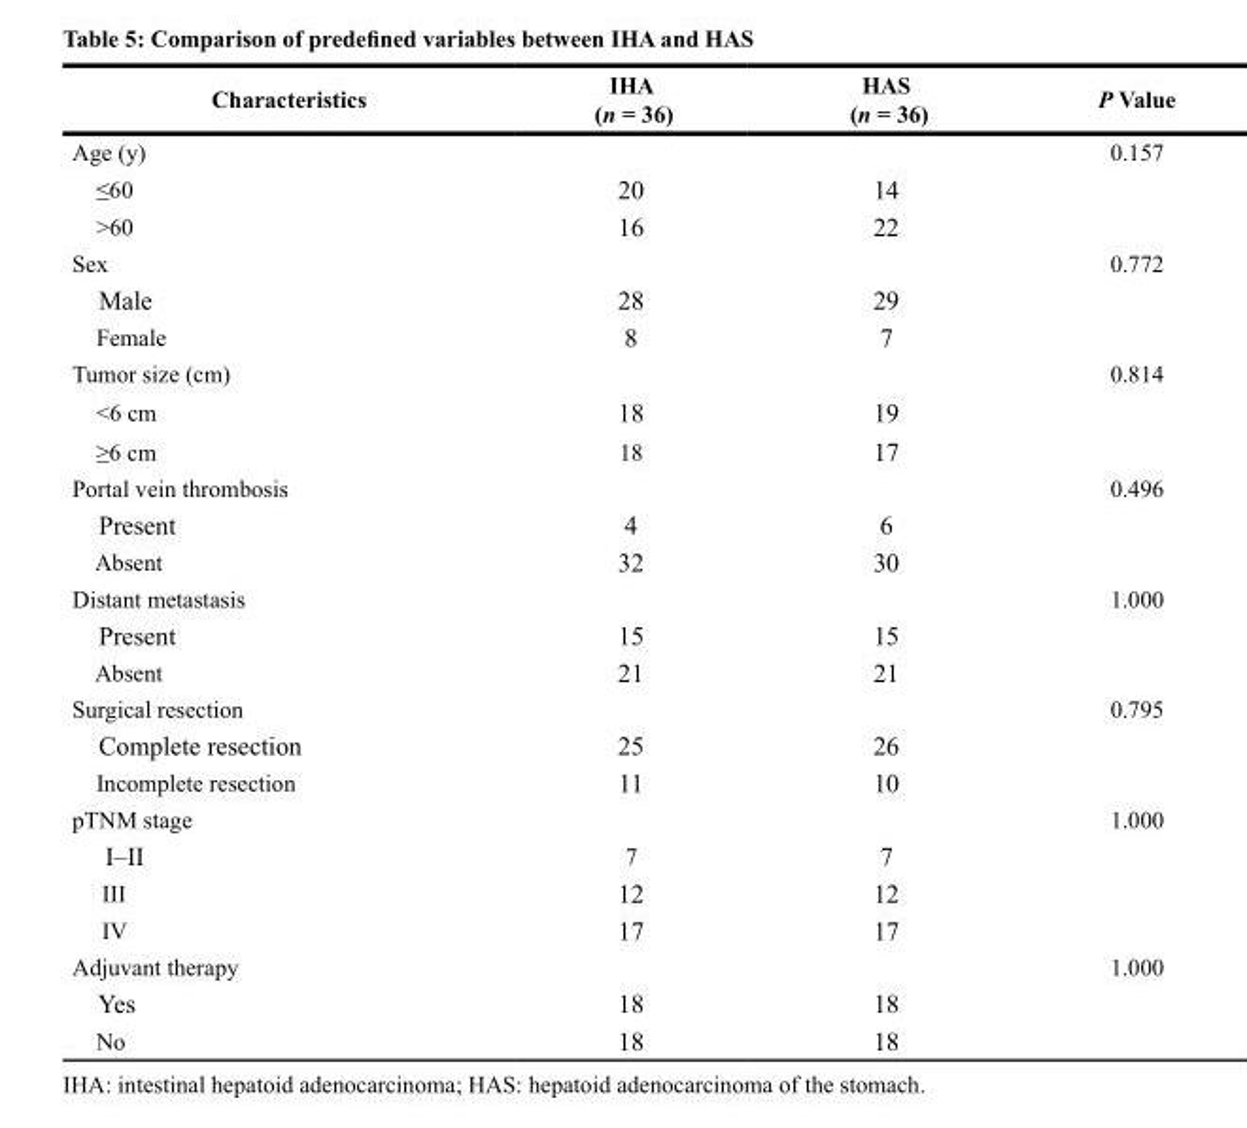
<table><thead><tr><td>Characteristics</td><td>IHA (n = 36)</td><td>HAS (n = 36)</td><td>P Value</td></tr></thead><tbody><tr><td>Age (y)</td><td></td><td></td><td>0.157</td></tr><tr><td>≤60</td><td>20</td><td>14</td><td></td></tr><tr><td>&gt;60</td><td>16</td><td>22</td><td></td></tr><tr><td>Sex</td><td></td><td></td><td>0.772</td></tr><tr><td>Male</td><td>28</td><td>29</td><td></td></tr><tr><td>Female</td><td>8</td><td>7</td><td></td></tr><tr><td>Tumor size (cm)</td><td></td><td></td><td>0.814</td></tr><tr><td>&lt;6 cm</td><td>18</td><td>19</td><td></td></tr><tr><td>≥6 cm</td><td>18</td><td>17</td><td></td></tr><tr><td>Portal vein thrombosis</td><td></td><td></td><td>0.496</td></tr><tr><td>Present</td><td>4</td><td>6</td><td></td></tr><tr><td>Absent</td><td>32</td><td>30</td><td></td></tr><tr><td>Distant metastasis</td><td></td><td></td><td>1.000</td></tr><tr><td>Present</td><td>15</td><td>15</td><td></td></tr><tr><td>Absent</td><td>21</td><td>21</td><td></td></tr><tr><td>Surgical resection</td><td></td><td></td><td>0.795</td></tr><tr><td>Complete resection</td><td>25</td><td>26</td><td></td></tr><tr><td>Incomplete resection</td><td>11</td><td>10</td><td></td></tr><tr><td>pTNM stage</td><td></td><td></td><td>1.000</td></tr><tr><td>I–II</td><td>7</td><td>7</td><td></td></tr><tr><td>III</td><td>12</td><td>12</td><td></td></tr><tr><td>IV</td><td>17</td><td>17</td><td></td></tr><tr><td>Adjuvant therapy</td><td></td><td></td><td>1.000</td></tr><tr><td>Yes</td><td>18</td><td>18</td><td></td></tr><tr><td>No</td><td>18</td><td>18</td><td></td></tr></tbody></table>